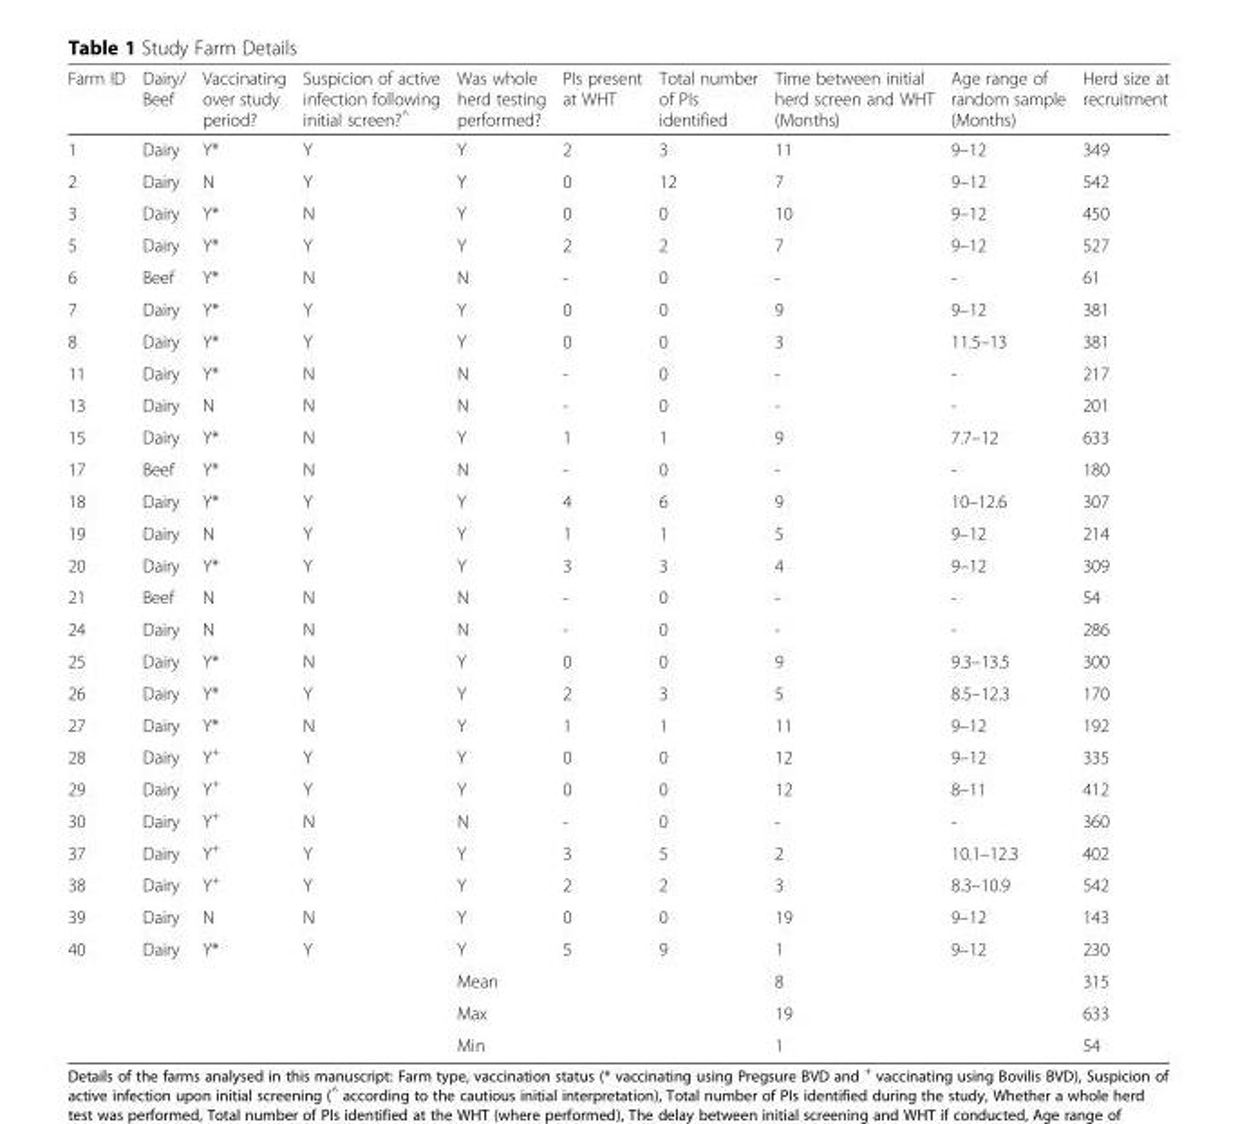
<table><thead><tr><td>Farm ID</td><td>Dairy/ Beef</td><td>Vaccinating over study period?</td><td>Suspicion of active infection following initial screen?<sup>^</sup></td><td>Was whole herd testing performed?</td><td>PIs present at WHT</td><td>Total number of PIs identified</td><td>Time between initial herd screen and WHT (Months)</td><td>Age range of random sample (Months)</td><td>Herd size at recruitment</td></tr></thead><tbody><tr><td>1</td><td>Dairy</td><td>Y*</td><td>Y</td><td>Y</td><td>2</td><td>3</td><td>11</td><td>9–12</td><td>349</td></tr><tr><td>2</td><td>Dairy</td><td>N</td><td>Y</td><td>Y</td><td>0</td><td>12</td><td>7</td><td>9–12</td><td>542</td></tr><tr><td>3</td><td>Dairy</td><td>Y*</td><td>N</td><td>Y</td><td>0</td><td>0</td><td>10</td><td>9–12</td><td>450</td></tr><tr><td>5</td><td>Dairy</td><td>Y*</td><td>Y</td><td>Y</td><td>2</td><td>2</td><td>7</td><td>9–12</td><td>527</td></tr><tr><td>6</td><td>Beef</td><td>Y*</td><td>N</td><td>N</td><td>-</td><td>0</td><td>-</td><td>-</td><td>61</td></tr><tr><td>7</td><td>Dairy</td><td>Y*</td><td>Y</td><td>Y</td><td>0</td><td>0</td><td>9</td><td>9–12</td><td>381</td></tr><tr><td>8</td><td>Dairy</td><td>Y*</td><td>Y</td><td>Y</td><td>0</td><td>0</td><td>3</td><td>11.5–13</td><td>381</td></tr><tr><td>11</td><td>Dairy</td><td>Y*</td><td>N</td><td>N</td><td>-</td><td>0</td><td>-</td><td>-</td><td>217</td></tr><tr><td>13</td><td>Dairy</td><td>N</td><td>N</td><td>N</td><td>-</td><td>0</td><td>-</td><td>-</td><td>201</td></tr><tr><td>15</td><td>Dairy</td><td>Y*</td><td>N</td><td>Y</td><td>1</td><td>1</td><td>9</td><td>7.7–12</td><td>633</td></tr><tr><td>17</td><td>Beef</td><td>Y*</td><td>N</td><td>N</td><td>-</td><td>0</td><td>-</td><td>-</td><td>180</td></tr><tr><td>18</td><td>Dairy</td><td>Y*</td><td>Y</td><td>Y</td><td>4</td><td>6</td><td>9</td><td>10–12.6</td><td>307</td></tr><tr><td>19</td><td>Dairy</td><td>N</td><td>Y</td><td>Y</td><td>1</td><td>1</td><td>5</td><td>9–12</td><td>214</td></tr><tr><td>20</td><td>Dairy</td><td>Y*</td><td>Y</td><td>Y</td><td>3</td><td>3</td><td>4</td><td>9–12</td><td>309</td></tr><tr><td>21</td><td>Beef</td><td>N</td><td>N</td><td>N</td><td>-</td><td>0</td><td>-</td><td>-</td><td>54</td></tr><tr><td>24</td><td>Dairy</td><td>N</td><td>N</td><td>N</td><td>-</td><td>0</td><td>-</td><td>-</td><td>286</td></tr><tr><td>25</td><td>Dairy</td><td>Y*</td><td>N</td><td>Y</td><td>0</td><td>0</td><td>9</td><td>9.3–13.5</td><td>300</td></tr><tr><td>26</td><td>Dairy</td><td>Y*</td><td>Y</td><td>Y</td><td>2</td><td>3</td><td>5</td><td>8.5–12.3</td><td>170</td></tr><tr><td>27</td><td>Dairy</td><td>Y*</td><td>N</td><td>Y</td><td>1</td><td>1</td><td>11</td><td>9–12</td><td>192</td></tr><tr><td>28</td><td>Dairy</td><td>Y<sup>+</sup></td><td>Y</td><td>Y</td><td>0</td><td>0</td><td>12</td><td>9–12</td><td>335</td></tr><tr><td>29</td><td>Dairy</td><td>Y<sup>+</sup></td><td>Y</td><td>Y</td><td>0</td><td>0</td><td>12</td><td>8–11</td><td>412</td></tr><tr><td>30</td><td>Dairy</td><td>Y<sup>+</sup></td><td>N</td><td>N</td><td>-</td><td>0</td><td>-</td><td>-</td><td>360</td></tr><tr><td>37</td><td>Dairy</td><td>Y<sup>+</sup></td><td>Y</td><td>Y</td><td>3</td><td>5</td><td>2</td><td>10.1–12.3</td><td>402</td></tr><tr><td>38</td><td>Dairy</td><td>Y<sup>+</sup></td><td>Y</td><td>Y</td><td>2</td><td>2</td><td>3</td><td>8.3–10.9</td><td>542</td></tr><tr><td>39</td><td>Dairy</td><td>N</td><td>N</td><td>Y</td><td>0</td><td>0</td><td>19</td><td>9–12</td><td>143</td></tr><tr><td rowspan="4">40</td><td>Dairy</td><td>Y*</td><td>Y</td><td>Y</td><td>5</td><td>9</td><td>1</td><td>9–12</td><td>230</td></tr><tr><td></td><td></td><td></td><td>Mean</td><td></td><td></td><td>8</td><td></td><td>315</td></tr><tr><td></td><td></td><td></td><td>Max</td><td></td><td></td><td>19</td><td></td><td>633</td></tr><tr><td></td><td></td><td></td><td>Min</td><td></td><td></td><td>1</td><td></td><td>54</td></tr></tbody></table>